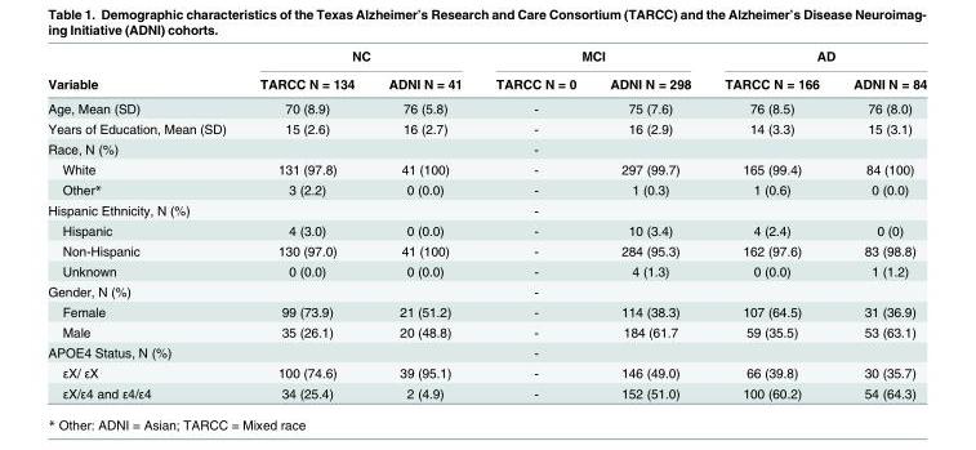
<table><thead><tr><td rowspan="2">Variable</td><td colspan="2">NC</td><td colspan="2">MCI</td><td colspan="2">AD</td></tr><tr><td>TARCC N = 134</td><td>ADNI N = 41</td><td>TARCC N = 0</td><td>ADNI N = 298</td><td>TARCC N = 166</td><td>ADNI N = 84</td></tr></thead><tbody><tr><td>Age, Mean (SD)</td><td>70 (8.9)</td><td>76 (5.8)</td><td>-</td><td>75 (7.6)</td><td>76 (8.5)</td><td>76 (8.0)</td></tr><tr><td>Years of Education, Mean (SD)</td><td>15 (2.6)</td><td>16 (2.7)</td><td>-</td><td>16 (2.9)</td><td>14 (3.3)</td><td>15 (3.1)</td></tr><tr><td>Race, N (%)</td><td></td><td></td><td>-</td><td></td><td></td><td></td></tr><tr><td>White</td><td>131 (97.8)</td><td>41 (100)</td><td>-</td><td>297 (99.7)</td><td>165 (99.4)</td><td>84 (100)</td></tr><tr><td>Other*</td><td>3 (2.2)</td><td>0 (0.0)</td><td>-</td><td>1 (0.3)</td><td>1 (0.6)</td><td>0 (0.0)</td></tr><tr><td>Hispanic Ethnicity, N (%)</td><td></td><td></td><td>-</td><td></td><td></td><td></td></tr><tr><td>Hispanic</td><td>4 (3.0)</td><td>0 (0.0)</td><td>-</td><td>10 (3.4)</td><td>4 (2.4)</td><td>0 (0)</td></tr><tr><td>Non-Hispanic</td><td>130 (97.0)</td><td>41 (100)</td><td>-</td><td>284 (95.3)</td><td>162 (97.6)</td><td>83 (98.8)</td></tr><tr><td>Unknown</td><td>0 (0.0)</td><td>0 (0.0)</td><td>-</td><td>4 (1.3)</td><td>0 (0.0)</td><td>1 (1.2)</td></tr><tr><td>Gender, N (%)</td><td></td><td></td><td>-</td><td></td><td></td><td></td></tr><tr><td>Female</td><td>99 (73.9)</td><td>21 (51.2)</td><td>-</td><td>114 (38.3)</td><td>107 (64.5)</td><td>31 (36.9)</td></tr><tr><td>Male</td><td>35 (26.1)</td><td>20 (48.8)</td><td>-</td><td>184 (61.7</td><td>59 (35.5)</td><td>53 (63.1)</td></tr><tr><td>APOE4 Status, N (%)</td><td></td><td></td><td>-</td><td></td><td></td><td></td></tr><tr><td>εX/ εX</td><td>100 (74.6)</td><td>39 (95.1)</td><td>-</td><td>146 (49.0)</td><td>66 (39.8)</td><td>30 (35.7)</td></tr><tr><td>εX/ε4 and ε4/ε4</td><td>34 (25.4)</td><td>2 (4.9)</td><td>-</td><td>152 (51.0)</td><td>100 (60.2)</td><td>54 (64.3)</td></tr></tbody></table>